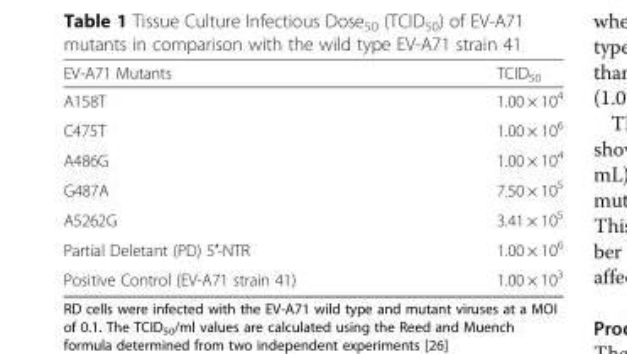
<table><thead><tr><td>EV-A71 Mutants</td><td>TCID<sub>50</sub></td></tr></thead><tbody><tr><td>A158T</td><td>1.00 × 10<sup>4</sup></td></tr><tr><td>C475T</td><td>1.00 × 10<sup>6</sup></td></tr><tr><td>A486G</td><td>1.00 × 10<sup>4</sup></td></tr><tr><td>G487A</td><td>7.50 × 10<sup>5</sup></td></tr><tr><td>A5262G</td><td>3.41 × 10<sup>5</sup></td></tr><tr><td>Partial Deletant (PD) 5′-NTR</td><td>1.00 × 10<sup>6</sup></td></tr><tr><td>Positive Control (EV-A71 strain 41)</td><td>1.00 × 10<sup>3</sup></td></tr></tbody></table>